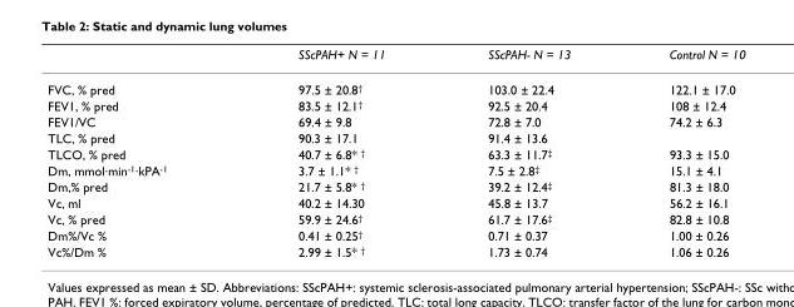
<table><thead><tr><td></td><td>SScPAH+ N = 11</td><td>SScPAH- N = 13</td><td>Control N = 10</td></tr></thead><tbody><tr><td>FVC, % pred</td><td>97.5 ± 20.8<sup>†</sup></td><td>103.0 ± 22.4</td><td>122.1 ± 17.0</td></tr><tr><td>FEV1, % pred</td><td>83.5 ± 12.1<sup>†</sup></td><td>92.5 ± 20.4</td><td>108 ± 12.4</td></tr><tr><td>FEV1/VC</td><td>69.4 ± 9.8</td><td>72.8 ± 7.0</td><td>74.2 ± 6.3</td></tr><tr><td>TLC, % pred</td><td>90.3 ± 17.1</td><td>91.4 ± 13.6</td><td></td></tr><tr><td>TLCO, % pred</td><td>40.7 ± 6.8* <sup>†</sup></td><td>63.3 ± 11.7<sup>‡</sup></td><td>93.3 ± 15.0</td></tr><tr><td>Dm, mmol·min<sup>-1</sup>·kPA<sup>-1</sup></td><td>3.7 ± 1.1* <sup>†</sup></td><td>7.5 ± 2.8<sup>‡</sup></td><td>15.1 ± 4.1</td></tr><tr><td>Dm,% pred</td><td>21.7 ± 5.8* <sup>†</sup></td><td>39.2 ± 12.4<sup>‡</sup></td><td>81.3 ± 18.0</td></tr><tr><td>Vc, ml</td><td>40.2 ± 14.30</td><td>45.8 ± 13.7</td><td>56.2 ± 16.1</td></tr><tr><td>Vc, % pred</td><td>59.9 ± 24.6<sup>†</sup></td><td>61.7 ± 17.6<sup>‡</sup></td><td>82.8 ± 10.8</td></tr><tr><td>Dm%/Vc %</td><td>0.41 ± 0.25<sup>†</sup></td><td>0.71 ± 0.37</td><td>1.00 ± 0.26</td></tr><tr><td>Vc%/Dm %</td><td>2.99 ± 1.5* <sup>†</sup></td><td>1.73 ± 0.74</td><td>1.06 ± 0.26</td></tr></tbody></table>